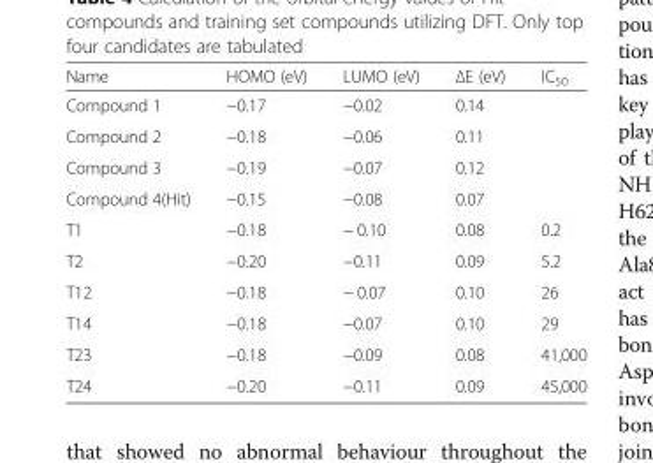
<table><thead><tr><td>Name</td><td>HOMO (eV)</td><td>LUMO (eV)</td><td>ΔE (eV)</td><td>IC<sub>50</sub></td></tr></thead><tbody><tr><td>Compound 1</td><td>−0.17</td><td>−0.02</td><td>0.14</td><td></td></tr><tr><td>Compound 2</td><td>−0.18</td><td>−0.06</td><td>0.11</td><td></td></tr><tr><td>Compound 3</td><td>−0.19</td><td>−0.07</td><td>0.12</td><td></td></tr><tr><td>Compound 4(Hit)</td><td>−0.15</td><td>−0.08</td><td>0.07</td><td></td></tr><tr><td>T1</td><td>−0.18</td><td>− 0.10</td><td>0.08</td><td>0.2</td></tr><tr><td>T2</td><td>−0.20</td><td>−0.11</td><td>0.09</td><td>5.2</td></tr><tr><td>T12</td><td>−0.18</td><td>− 0.07</td><td>0.10</td><td>26</td></tr><tr><td>T14</td><td>−0.18</td><td>−0.07</td><td>0.10</td><td>29</td></tr><tr><td>T23</td><td>−0.18</td><td>−0.09</td><td>0.08</td><td>41,000</td></tr><tr><td>T24</td><td>−0.20</td><td>−0.11</td><td>0.09</td><td>45,000</td></tr></tbody></table>